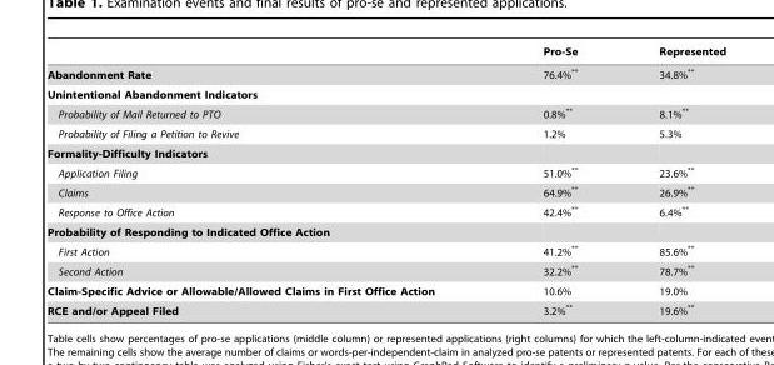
<table><thead><tr><td></td><td>Pro-Se</td><td>Represented</td></tr></thead><tbody><tr><td>Abandonment Rate</td><td>76.4%**</td><td>34.8%**</td></tr><tr><td colspan="3">Unintentional Abandonment Indicators</td></tr><tr><td>Probability of Mail Returned to PTO</td><td>0.8%**</td><td>8.1%**</td></tr><tr><td>Probability of Filing a Petition to Revive</td><td>1.2%</td><td>5.3%</td></tr><tr><td colspan="3">Formality-Difficulty Indicators</td></tr><tr><td>Application Filing</td><td>51.0%**</td><td>23.6%**</td></tr><tr><td>Claims</td><td>64.9%**</td><td>26.9%**</td></tr><tr><td>Response to Office Action</td><td>42.4%**</td><td>6.4%**</td></tr><tr><td colspan="3">Probability of Responding to Indicated Office Action</td></tr><tr><td>First Action</td><td>41.2%**</td><td>85.6%**</td></tr><tr><td>Second Action</td><td>32.2%**</td><td>78.7%**</td></tr><tr><td>Claim-Specific Advice or Allowable/Allowed Claims in First Office Action</td><td>10.6%</td><td>19.0%</td></tr><tr><td>RCE and/or Appeal Filed</td><td>3.2%**</td><td>19.6%**</td></tr></tbody></table>